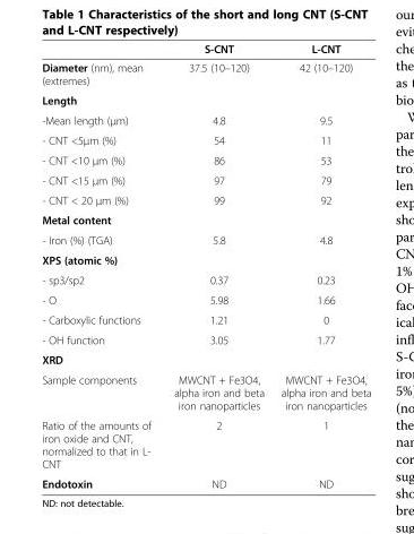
<table><thead><tr><td></td><td>S-CNT</td><td>L-CNT</td></tr></thead><tbody><tr><td>Diameter (nm), mean (extremes)</td><td>37.5 (10–120)</td><td>42 (10–120)</td></tr><tr><td colspan="3">Length</td></tr><tr><td>-Mean length (μm)</td><td>4.8</td><td>9.5</td></tr><tr><td>- CNT &lt;5μm (%)</td><td>54</td><td>11</td></tr><tr><td>- CNT &lt;10 μm (%)</td><td>86</td><td>53</td></tr><tr><td>- CNT &lt;15 μm (%)</td><td>97</td><td>79</td></tr><tr><td>- CNT &lt; 20 μm (%)</td><td>99</td><td>92</td></tr><tr><td colspan="3">Metal content</td></tr><tr><td>- Iron (%) (TGA)</td><td>5.8</td><td>4.8</td></tr><tr><td colspan="3">XPS (atomic %)</td></tr><tr><td>- sp3/sp2</td><td>0.37</td><td>0.23</td></tr><tr><td>- O</td><td>5.98</td><td>1.66</td></tr><tr><td>- Carboxylic functions</td><td>1.21</td><td>0</td></tr><tr><td>- OH function</td><td>3.05</td><td>1.77</td></tr><tr><td colspan="3">XRD</td></tr><tr><td>Sample components</td><td>MWCNT + Fe3O4, alpha iron and beta iron nanoparticles</td><td>MWCNT + Fe3O4, alpha iron and beta iron nanoparticles</td></tr><tr><td>Ratio of the amounts of iron oxide and CNT, normalized to that in L- CNT</td><td>2</td><td>1</td></tr><tr><td>Endotoxin</td><td>ND</td><td>ND</td></tr></tbody></table>